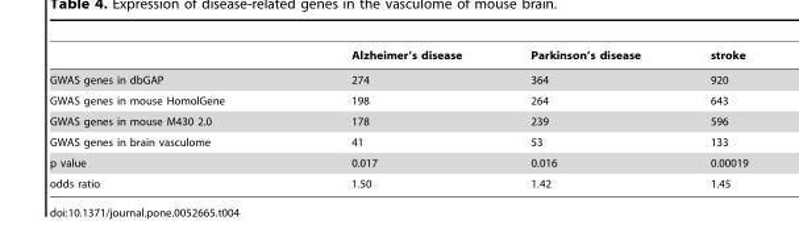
<table><thead><tr><td></td><td>Alzheimer’s disease</td><td>Parkinson’s disease</td><td>stroke</td></tr></thead><tbody><tr><td>GWAS genes in dbGAP</td><td>274</td><td>364</td><td>920</td></tr><tr><td>GWAS genes in mouse HomolGene</td><td>198</td><td>264</td><td>643</td></tr><tr><td>GWAS genes in mouse M430 2.0</td><td>178</td><td>239</td><td>596</td></tr><tr><td>GWAS genes in brain vasculome</td><td>41</td><td>53</td><td>133</td></tr><tr><td>p value</td><td>0.017</td><td>0.016</td><td>0.00019</td></tr><tr><td>odds ratio</td><td>1.50</td><td>1.42</td><td>1.45</td></tr></tbody></table>